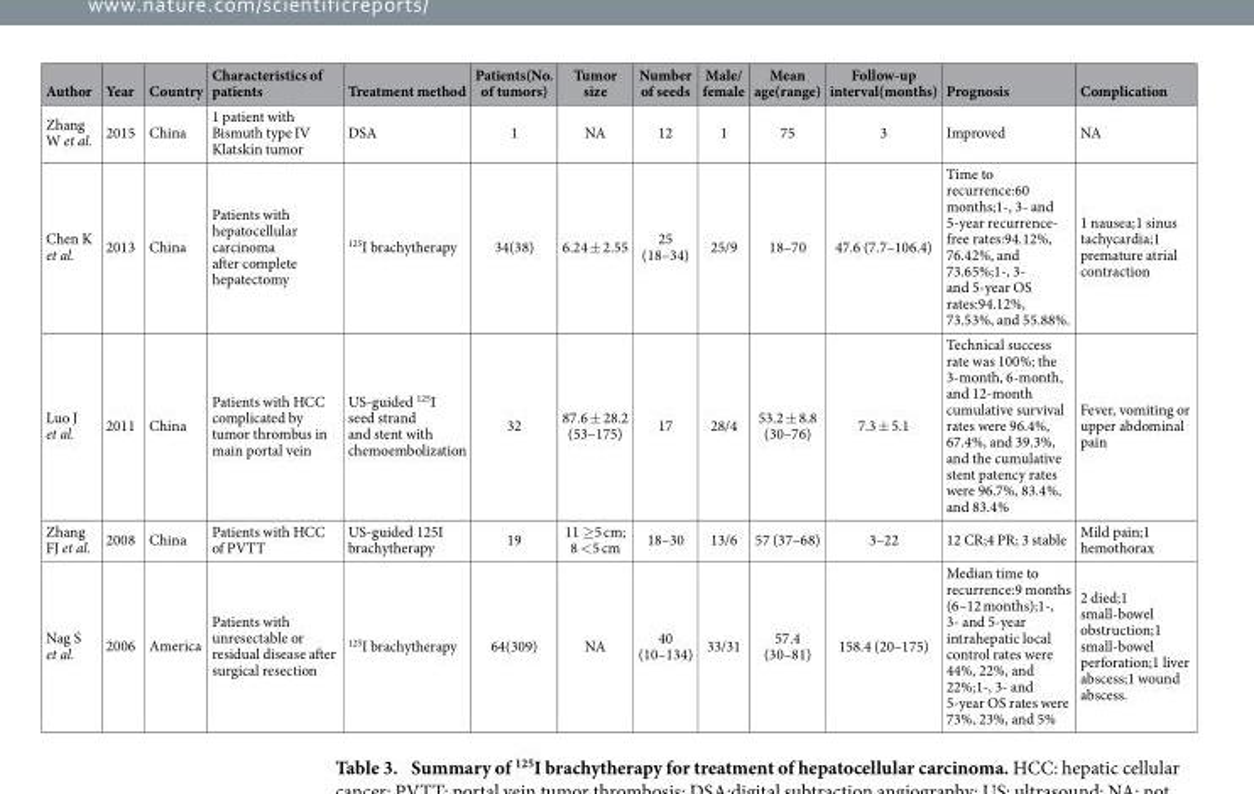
<table><thead><tr><td>Author</td><td>Year</td><td>Country</td><td>Characteristics of patients</td><td>Treatment method</td><td>Patients(No. of tumors)</td><td>Tumor size</td><td>Number of seeds</td><td>Male/ female</td><td>Mean age(range)</td><td>Follow-up interval(months)</td><td>Prognosis</td><td>Complication</td></tr></thead><tbody><tr><td>Zhang W et al.</td><td>2015</td><td>China</td><td>1 patient with Bismuth type IV Klatskin tumor</td><td>DSA</td><td>1</td><td>NA</td><td>12</td><td>1</td><td>75</td><td>3</td><td>Improved</td><td>NA</td></tr><tr><td>Chen K et al.</td><td>2013</td><td>China</td><td>Patients with hepatocellular carcinoma after complete hepatectomy</td><td><sup>125</sup>I brachytherapy</td><td>34(38)</td><td>6.24 ± 2.55</td><td>25 (18–34)</td><td>25/9</td><td>18–70</td><td>47.6 (7.7–106.4)</td><td>Time to recurrence:60 months;1-, 3- and 5-year recurrence- free rates:94.12%, 76.42%, and 73.65%;1-, 3- and 5-year OS rates:94.12%, 73.53%, and 55.88%.</td><td>1 nausea;1 sinus tachycardia;1 premature atrial contraction</td></tr><tr><td>Luo J et al.</td><td>2011</td><td>China</td><td>Patients with HCC complicated by tumor thrombus in main portal vein</td><td>US-guided <sup>125</sup>I seed strand and stent with chemoembolization</td><td>32</td><td>87.6 ± 28.2 (53–175)</td><td>17</td><td>28/4</td><td>53.2 ± 8.8 (30–76)</td><td>7.3 ± 5.1</td><td>Technical success rate was 100%; the 3-month, 6-month, and 12-month cumulative survival rates were 96.4%, 67.4%, and 39.3%, and the cumulative stent patency rates were 96.7%, 83.4%, and 83.4%</td><td>Fever, vomiting or upper abdominal pain</td></tr><tr><td>Zhang FJ et al.</td><td>2008</td><td>China</td><td>Patients with HCC of PVTT</td><td>US-guided 125I brachytherapy</td><td>19</td><td>11 ≥ 5 cm; 8 &lt; 5 cm</td><td>18–30</td><td>13/6</td><td>57 (37–68)</td><td>3–22</td><td>12 CR;4 PR; 3 stable</td><td>Mild pain;1 hemothorax</td></tr><tr><td>Nag S et al.</td><td>2006</td><td>America</td><td>Patients with unresectable or residual disease after surgical resection</td><td><sup>125</sup>I brachytherapy</td><td>64(309)</td><td>NA</td><td>40 (10–134)</td><td>33/31</td><td>57.4 (30–81)</td><td>158.4 (20–175)</td><td>Median time to recurrence:9 months (6–12 months);1-, 3- and 5-year intrahepatic local control rates were 44%, 22%, and 22%;1-, 3- and 5-year OS rates were 73%, 23%, and 5%</td><td>2 died;1 small-bowel obstruction;1 small-bowel perforation;1 liver abscess;1 wound abscess.</td></tr></tbody></table>